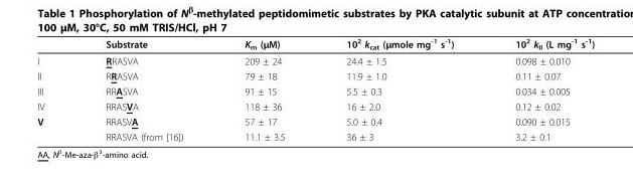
<table><thead><tr><td></td><td>Substrate</td><td>K<sub>m</sub> (μM)</td><td>10<sup>2</sup> k<sub>cat</sub> (μmole mg<sup>-1</sup> s<sup>-1</sup>)</td><td>10<sup>2</sup> k<sub>II</sub> (L mg<sup>-1</sup> s<sup>-1</sup>)</td></tr></thead><tbody><tr><td>I</td><td>RRASVA</td><td>209 ± 24</td><td>24.4 ± 1.5</td><td>0.098 ± 0.010</td></tr><tr><td>II</td><td>RRASVA</td><td>79 ± 18</td><td>11.9 ± 1.0</td><td>0.11 ± 0.07</td></tr><tr><td>III</td><td>RRASVA</td><td>91 ± 15</td><td>5.5 ± 0.3</td><td>0.034 ± 0.005</td></tr><tr><td>IV</td><td>RRASVA</td><td>118 ± 36</td><td>16 ± 2.0</td><td>0.12 ± 0.02</td></tr><tr><td rowspan="2">V</td><td>RRASVA</td><td>57 ± 17</td><td>5.0 ± 0.4</td><td>0.090 ± 0.015</td></tr><tr><td>RRASVA (from [16])</td><td>11.1 ± 3.5</td><td>36 ± 3</td><td>3.2 ± 0.1</td></tr></tbody></table>